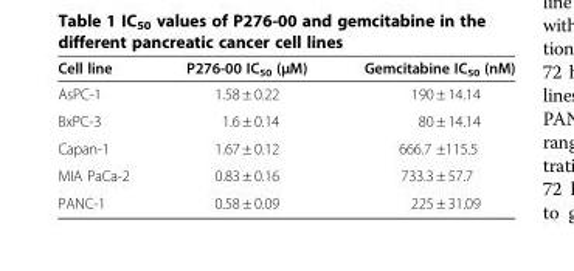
<table><thead><tr><td>Cell line</td><td>P276-00 IC<sub>50</sub> (μM)</td><td>Gemcitabine IC<sub>50</sub> (nM)</td></tr></thead><tbody><tr><td>AsPC-1</td><td>1.58 ± 0.22</td><td>190 ± 14.14</td></tr><tr><td>BxPC-3</td><td>1.6 ± 0.14</td><td>80 ± 14.14</td></tr><tr><td>Capan-1</td><td>1.67 ± 0.12</td><td>666.7 ±115.5</td></tr><tr><td>MIA PaCa-2</td><td>0.83 ± 0.16</td><td>733.3 ± 57.7</td></tr><tr><td>PANC-1</td><td>0.58 ± 0.09</td><td>225 ± 31.09</td></tr></tbody></table>